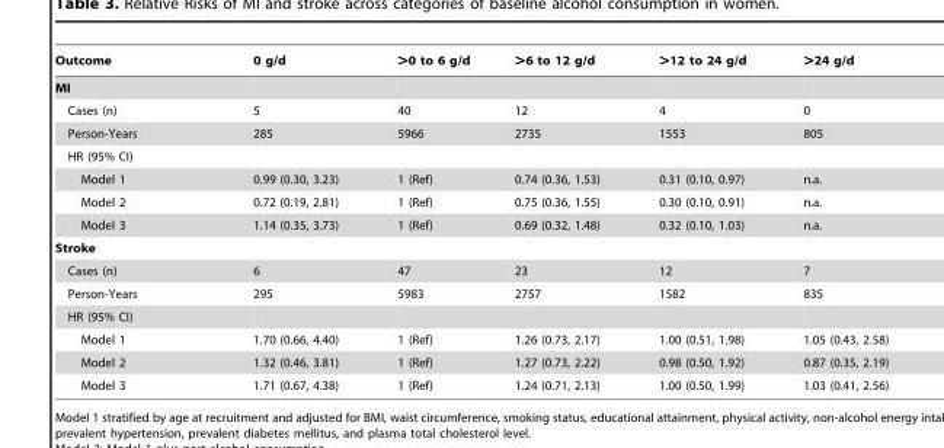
<table><thead><tr><td>Outcome</td><td>0 g/d</td><td>&gt;0 to 6 g/d</td><td>&gt;6 to 12 g/d</td><td>&gt;12 to 24 g/d</td><td>&gt;24 g/d</td></tr></thead><tbody><tr><td colspan="6">MI</td></tr><tr><td>Cases (n)</td><td>5</td><td>40</td><td>12</td><td>4</td><td>0</td></tr><tr><td>Person-Years</td><td>285</td><td>5966</td><td>2735</td><td>1553</td><td>805</td></tr><tr><td colspan="6">HR (95% CI)</td></tr><tr><td>Model 1</td><td>0.99 (0.30, 3.23)</td><td>1 (Ref)</td><td>0.74 (0.36, 1.53)</td><td>0.31 (0.10, 0.97)</td><td>n.a.</td></tr><tr><td>Model 2</td><td>0.72 (0.19, 2.81)</td><td>1 (Ref)</td><td>0.75 (0.36, 1.55)</td><td>0.30 (0.10, 0.91)</td><td>n.a.</td></tr><tr><td>Model 3</td><td>1.14 (0.35, 3.73)</td><td>1 (Ref)</td><td>0.69 (0.32, 1.48)</td><td>0.32 (0.10, 1.03)</td><td>n.a.</td></tr><tr><td colspan="6">Stroke</td></tr><tr><td>Cases (n)</td><td>6</td><td>47</td><td>23</td><td>12</td><td>7</td></tr><tr><td>Person-Years</td><td>295</td><td>5983</td><td>2757</td><td>1582</td><td>835</td></tr><tr><td colspan="6">HR (95% CI)</td></tr><tr><td>Model 1</td><td>1.70 (0.66, 4.40)</td><td>1 (Ref)</td><td>1.26 (0.73, 2.17)</td><td>1.00 (0.51, 1.98)</td><td>1.05 (0.43, 2.58)</td></tr><tr><td>Model 2</td><td>1.32 (0.46, 3.81)</td><td>1 (Ref)</td><td>1.27 (0.73, 2.22)</td><td>0.98 (0.50, 1.92)</td><td>0.87 (0.35, 2.19)</td></tr><tr><td>Model 3</td><td>1.71 (0.67, 4.38)</td><td>1 (Ref)</td><td>1.24 (0.71, 2.13)</td><td>1.00 (0.50, 1.99)</td><td>1.03 (0.41, 2.56)</td></tr></tbody></table>